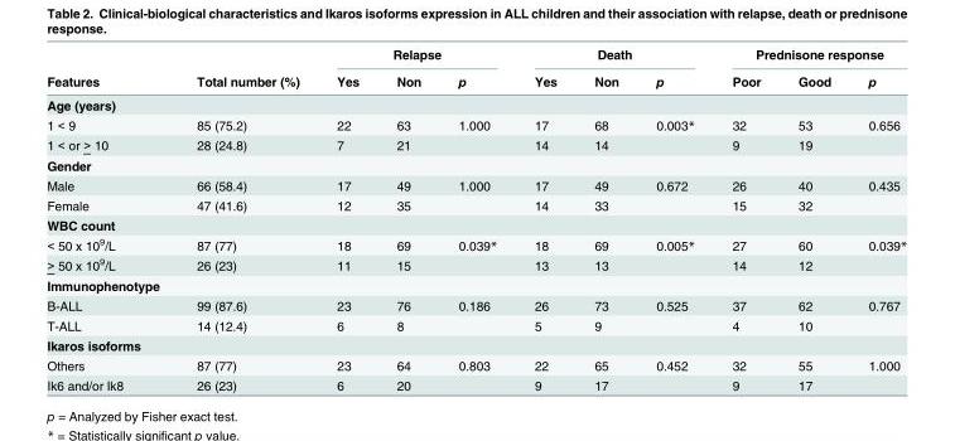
<table><thead><tr><td rowspan="2">Features</td><td rowspan="2">Total number (%)</td><td colspan="3">Relapse</td><td colspan="3">Death</td><td colspan="3">Prednisone response</td></tr><tr><td>Yes</td><td>Non</td><td>p</td><td>Yes</td><td>Non</td><td>p</td><td>Poor</td><td>Good</td><td>p</td></tr></thead><tbody><tr><td colspan="11">Age (years)</td></tr><tr><td>1 &lt; 9</td><td>85 (75.2)</td><td>22</td><td>63</td><td>1.000</td><td>17</td><td>68</td><td>0.003*</td><td>32</td><td>53</td><td>0.656</td></tr><tr><td>1 &lt; or &gt; 10</td><td>28 (24.8)</td><td>7</td><td>21</td><td></td><td>14</td><td>14</td><td></td><td>9</td><td>19</td><td></td></tr><tr><td colspan="11">Gender</td></tr><tr><td>Male</td><td>66 (58.4)</td><td>17</td><td>49</td><td>1.000</td><td>17</td><td>49</td><td>0.672</td><td>26</td><td>40</td><td>0.435</td></tr><tr><td>Female</td><td>47 (41.6)</td><td>12</td><td>35</td><td></td><td>14</td><td>33</td><td></td><td>15</td><td>32</td><td></td></tr><tr><td colspan="11">WBC count</td></tr><tr><td>&lt; 50 x 10<sup>9</sup>/L</td><td>87 (77)</td><td>18</td><td>69</td><td>0.039*</td><td>18</td><td>69</td><td>0.005*</td><td>27</td><td>60</td><td>0.039*</td></tr><tr><td>&gt; 50 x 10<sup>9</sup>/L</td><td>26 (23)</td><td>11</td><td>15</td><td></td><td>13</td><td>13</td><td></td><td>14</td><td>12</td><td></td></tr><tr><td colspan="11">Immunophenotype</td></tr><tr><td>B-ALL</td><td>99 (87.6)</td><td>23</td><td>76</td><td>0.186</td><td>26</td><td>73</td><td>0.525</td><td>37</td><td>62</td><td>0.767</td></tr><tr><td>T-ALL</td><td>14 (12.4)</td><td>6</td><td>8</td><td></td><td>5</td><td>9</td><td></td><td>4</td><td>10</td><td></td></tr><tr><td colspan="11">Ikaros isoforms</td></tr><tr><td>Others</td><td>87 (77)</td><td>23</td><td>64</td><td>0.803</td><td>22</td><td>65</td><td>0.452</td><td>32</td><td>55</td><td>1.000</td></tr><tr><td>Ik6 and/or Ik8</td><td>26 (23)</td><td>6</td><td>20</td><td></td><td>9</td><td>17</td><td></td><td>9</td><td>17</td><td></td></tr></tbody></table>